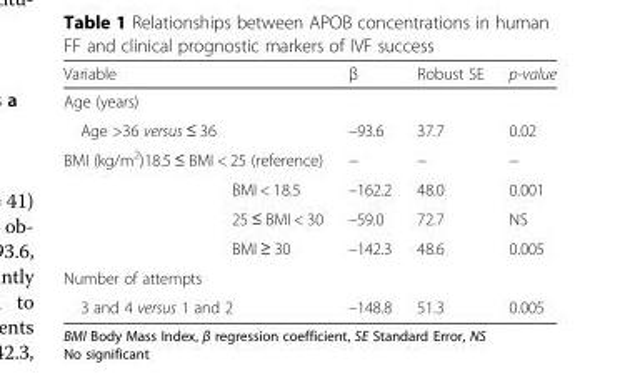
<table><thead><tr><td>Variable</td><td>β</td><td>Robust SE</td><td>p-value</td></tr></thead><tbody><tr><td colspan="4">Age (years)</td></tr><tr><td>Age &gt;36 versus ≤ 36</td><td>–93.6</td><td>37.7</td><td>0.02</td></tr><tr><td>BMI (kg/m<sup>2</sup>)18.5 ≤ BMI &lt; 25 (reference)</td><td>−</td><td>−</td><td>−</td></tr><tr><td>BMI &lt; 18.5</td><td>–162.2</td><td>48.0</td><td>0.001</td></tr><tr><td>25 ≤ BMI &lt; 30</td><td>–59.0</td><td>72.7</td><td>NS</td></tr><tr><td>BMI ≥ 30</td><td>–142.3</td><td>48.6</td><td>0.005</td></tr><tr><td colspan="4">Number of attempts</td></tr><tr><td>3 and 4 versus 1 and 2</td><td>–148.8</td><td>51.3</td><td>0.005</td></tr></tbody></table>